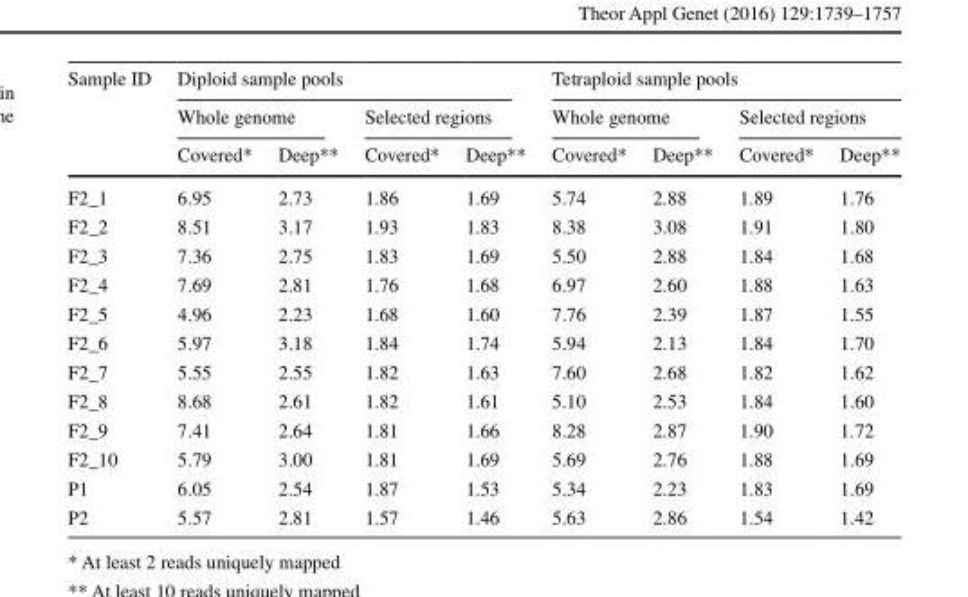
<table><thead><tr><td rowspan="3">Sample ID</td><td colspan="4">Diploid sample pools</td><td colspan="4">Tetraploid sample pools</td></tr><tr><td colspan="2">Whole genome</td><td colspan="2">Selected regions</td><td colspan="2">Whole genome</td><td colspan="2">Selected regions</td></tr><tr><td>Covered*</td><td>Deep**</td><td>Covered*</td><td>Deep**</td><td>Covered*</td><td>Deep**</td><td>Covered*</td><td>Deep**</td></tr></thead><tbody><tr><td>F2_1</td><td>6.95</td><td>2.73</td><td>1.86</td><td>1.69</td><td>5.74</td><td>2.88</td><td>1.89</td><td>1.76</td></tr><tr><td>F2_2</td><td>8.51</td><td>3.17</td><td>1.93</td><td>1.83</td><td>8.38</td><td>3.08</td><td>1.91</td><td>1.80</td></tr><tr><td>F2_3</td><td>7.36</td><td>2.75</td><td>1.83</td><td>1.69</td><td>5.50</td><td>2.88</td><td>1.84</td><td>1.68</td></tr><tr><td>F2_4</td><td>7.69</td><td>2.81</td><td>1.76</td><td>1.68</td><td>6.97</td><td>2.60</td><td>1.88</td><td>1.63</td></tr><tr><td>F2_5</td><td>4.96</td><td>2.23</td><td>1.68</td><td>1.60</td><td>7.76</td><td>2.39</td><td>1.87</td><td>1.55</td></tr><tr><td>F2_6</td><td>5.97</td><td>3.18</td><td>1.84</td><td>1.74</td><td>5.94</td><td>2.13</td><td>1.84</td><td>1.70</td></tr><tr><td>F2_7</td><td>5.55</td><td>2.55</td><td>1.82</td><td>1.63</td><td>7.60</td><td>2.68</td><td>1.82</td><td>1.62</td></tr><tr><td>F2_8</td><td>8.68</td><td>2.61</td><td>1.82</td><td>1.61</td><td>5.10</td><td>2.53</td><td>1.84</td><td>1.60</td></tr><tr><td>F2_9</td><td>7.41</td><td>2.64</td><td>1.81</td><td>1.66</td><td>8.28</td><td>2.87</td><td>1.90</td><td>1.72</td></tr><tr><td>F2_10</td><td>5.79</td><td>3.00</td><td>1.81</td><td>1.69</td><td>5.69</td><td>2.76</td><td>1.88</td><td>1.69</td></tr><tr><td>P1</td><td>6.05</td><td>2.54</td><td>1.87</td><td>1.53</td><td>5.34</td><td>2.23</td><td>1.83</td><td>1.69</td></tr><tr><td>P2</td><td>5.57</td><td>2.81</td><td>1.57</td><td>1.46</td><td>5.63</td><td>2.86</td><td>1.54</td><td>1.42</td></tr></tbody></table>